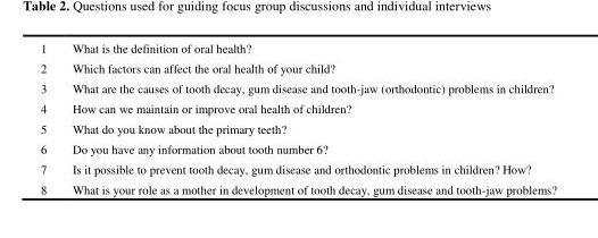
<table><tbody><tr><td>1</td><td>What is the definition of oral health?</td></tr><tr><td>2</td><td>Which factors can affect the oral health of your child?</td></tr><tr><td>3</td><td>What are the causes of tooth decay, gum disease and tooth-jaw (orthodontic) problems in children?</td></tr><tr><td>4</td><td>How can we maintain or improve oral health of children?</td></tr><tr><td>5</td><td>What do you know about the primary teeth?</td></tr><tr><td>6</td><td>Do you have any information about tooth number 6?</td></tr><tr><td>7</td><td>Is it possible to prevent tooth decay, gum disease and orthodontic problems in children? How?</td></tr><tr><td>8</td><td>What is your role as a mother in development of tooth decay, gum disease and tooth-jaw problems?</td></tr></tbody></table>